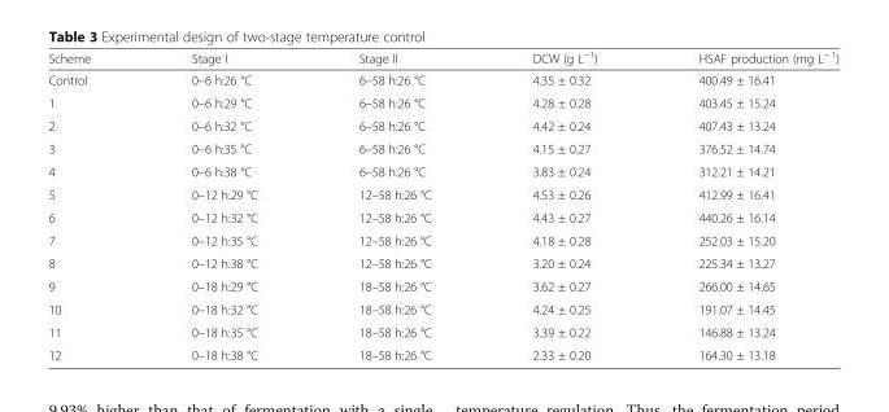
<table><thead><tr><td>Scheme</td><td>Stage Ι</td><td>Stage II</td><td>DCW (g L<sup>−1</sup>)</td><td>HSAF production (mg L<sup>− 1</sup>)</td></tr></thead><tbody><tr><td>Control</td><td>0–6 h:26 °C</td><td>6–58 h:26 °C</td><td>4.35 ± 0.32</td><td>400.49 ± 16.41</td></tr><tr><td>1</td><td>0–6 h:29 °C</td><td>6–58 h:26 °C</td><td>4.28 ± 0.28</td><td>403.45 ± 15.24</td></tr><tr><td>2</td><td>0–6 h:32 °C</td><td>6–58 h:26 °C</td><td>4.42 ± 0.24</td><td>407.43 ± 13.24</td></tr><tr><td>3</td><td>0–6 h:35 °C</td><td>6–58 h:26 °C</td><td>4.15 ± 0.27</td><td>376.52 ± 14.74</td></tr><tr><td>4</td><td>0–6 h:38 °C</td><td>6–58 h:26 °C</td><td>3.83 ± 0.24</td><td>312.21 ± 14.21</td></tr><tr><td>5</td><td>0–12 h:29 °C</td><td>12–58 h:26 °C</td><td>4.53 ± 0.26</td><td>412.99 ± 16.41</td></tr><tr><td>6</td><td>0–12 h:32 °C</td><td>12–58 h:26 °C</td><td>4.43 ± 0.27</td><td>440.26 ± 16.14</td></tr><tr><td>7</td><td>0–12 h:35 °C</td><td>12–58 h:26 °C</td><td>4.18 ± 0.28</td><td>252.03 ± 15.20</td></tr><tr><td>8</td><td>0–12 h:38 °C</td><td>12–58 h:26 °C</td><td>3.20 ± 0.24</td><td>225.34 ± 13.27</td></tr><tr><td>9</td><td>0–18 h:29 °C</td><td>18–58 h:26 °C</td><td>3.62 ± 0.27</td><td>266.00 ± 14.65</td></tr><tr><td>10</td><td>0–18 h:32 °C</td><td>18–58 h:26 °C</td><td>4.24 ± 0.25</td><td>191.07 ± 14.45</td></tr><tr><td>11</td><td>0–18 h:35 °C</td><td>18–58 h:26 °C</td><td>3.39 ± 0.22</td><td>146.88 ± 13.24</td></tr><tr><td>12</td><td>0–18 h:38 °C</td><td>18–58 h:26 °C</td><td>2.33 ± 0.20</td><td>164.30 ± 13.18</td></tr></tbody></table>